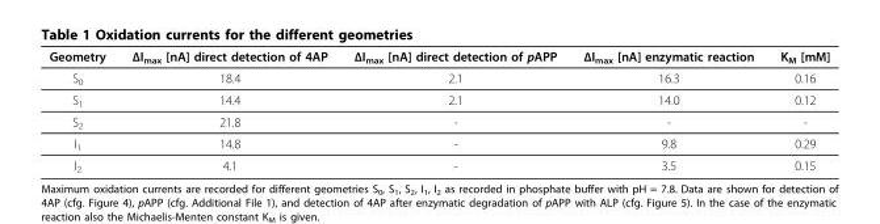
<table><thead><tr><td>Geometry</td><td>ΔI<sub>max</sub> [nA] direct detection of 4AP</td><td>ΔI<sub>max</sub> [nA] direct detection of pAPP</td><td>ΔI<sub>max</sub> [nA] enzymatic reaction</td><td>K<sub>M</sub> [mM]</td></tr></thead><tbody><tr><td>S<sub>0</sub></td><td>18.4</td><td>2.1</td><td>16.3</td><td>0.16</td></tr><tr><td>S<sub>1</sub></td><td>14.4</td><td>2.1</td><td>14.0</td><td>0.12</td></tr><tr><td>S<sub>2</sub></td><td>21.8</td><td>-</td><td>-</td><td>-</td></tr><tr><td>I<sub>1</sub></td><td>14.8</td><td>-</td><td>9.8</td><td>0.29</td></tr><tr><td>I<sub>2</sub></td><td>4.1</td><td>-</td><td>3.5</td><td>0.15</td></tr></tbody></table>